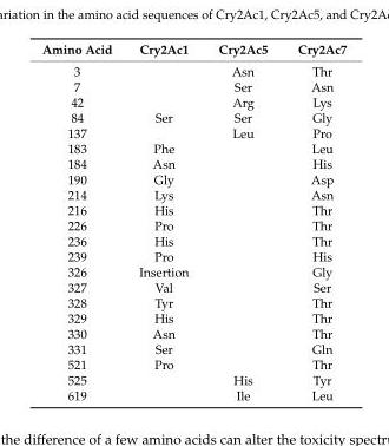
<table><thead><tr><td>Amino Acid</td><td>Cry2Ac1</td><td>Cry2Ac5</td><td>Cry2Ac7</td></tr></thead><tbody><tr><td>3</td><td></td><td>Asn</td><td>Thr</td></tr><tr><td>7</td><td></td><td>Ser</td><td>Asn</td></tr><tr><td>42</td><td></td><td>Arg</td><td>Lys</td></tr><tr><td>84</td><td>Ser</td><td>Ser</td><td>Gly</td></tr><tr><td>137</td><td></td><td>Leu</td><td>Pro</td></tr><tr><td>183</td><td>Phe</td><td></td><td>Leu</td></tr><tr><td>184</td><td>Asn</td><td></td><td>His</td></tr><tr><td>190</td><td>Gly</td><td></td><td>Asp</td></tr><tr><td>214</td><td>Lys</td><td></td><td>Asn</td></tr><tr><td>216</td><td>His</td><td></td><td>Thr</td></tr><tr><td>226</td><td>Pro</td><td></td><td>Thr</td></tr><tr><td>236</td><td>His</td><td></td><td>Thr</td></tr><tr><td>239</td><td>Pro</td><td></td><td>His</td></tr><tr><td>326</td><td>Insertion</td><td></td><td>Gly</td></tr><tr><td>327</td><td>Val</td><td></td><td>Ser</td></tr><tr><td>328</td><td>Tyr</td><td></td><td>Thr</td></tr><tr><td>329</td><td>His</td><td></td><td>Thr</td></tr><tr><td>330</td><td>Asn</td><td></td><td>Thr</td></tr><tr><td>331</td><td>Ser</td><td></td><td>Gln</td></tr><tr><td>521</td><td>Pro</td><td></td><td>Thr</td></tr><tr><td>525</td><td></td><td>His</td><td>Tyr</td></tr><tr><td>619</td><td></td><td>Ile</td><td>Leu</td></tr></tbody></table>